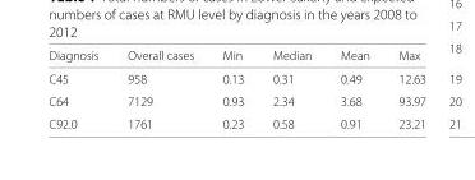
<table><thead><tr><td>Diagnosis</td><td>Overall cases</td><td>Min</td><td>Median</td><td>Mean</td><td>Max</td></tr></thead><tbody><tr><td>C45</td><td>958</td><td>0.13</td><td>0.31</td><td>0.49</td><td>12.63</td></tr><tr><td>C64</td><td>7129</td><td>0.93</td><td>2.34</td><td>3.68</td><td>93.97</td></tr><tr><td>C92.0</td><td>1761</td><td>0.23</td><td>0.58</td><td>0.91</td><td>23.21</td></tr></tbody></table>